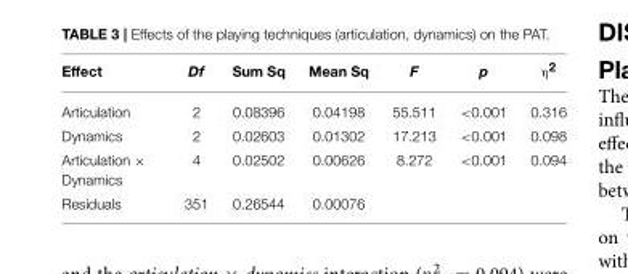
<table><thead><tr><td>Effect</td><td>Df</td><td>Sum Sq</td><td>Mean Sq</td><td>F</td><td>p</td><td>η<sup>2</sup></td></tr></thead><tbody><tr><td>Articulation</td><td>2</td><td>0.08396</td><td>0.04198</td><td>55.511</td><td>&lt;0.001</td><td>0.316</td></tr><tr><td>Dynamics</td><td>2</td><td>0.02603</td><td>0.01302</td><td>17.213</td><td>&lt;0.001</td><td>0.098</td></tr><tr><td>Articulation × Dynamics</td><td>4</td><td>0.02502</td><td>0.00626</td><td>8.272</td><td>&lt;0.001</td><td>0.094</td></tr><tr><td>Residuals</td><td>351</td><td>0.26544</td><td>0.00076</td><td></td><td></td><td></td></tr></tbody></table>